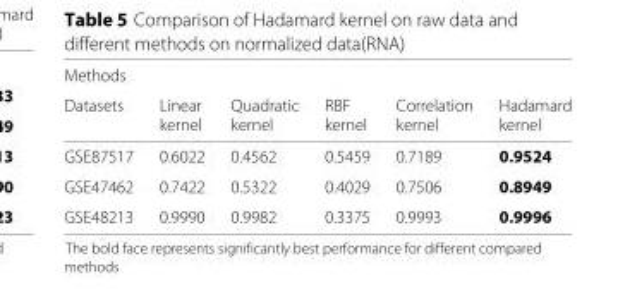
<table><thead><tr><td rowspan="3">Methods Datasets</td><td rowspan="3">Linear kernel</td><td rowspan="3">Quadratic kernel</td><td rowspan="3">RBF kernel</td><td rowspan="3">Correlation kernel</td><td rowspan="3">Hadamard kernel</td></tr><tr></tr><tr></tr></thead><tbody><tr><td>GSE87517</td><td>0.6022</td><td>0.4562</td><td>0.5459</td><td>0.7189</td><td>0.9524</td></tr><tr><td>GSE47462</td><td>0.7422</td><td>0.5322</td><td>0.4029</td><td>0.7506</td><td>0.8949</td></tr><tr><td>GSE48213</td><td>0.9990</td><td>0.9982</td><td>0.3375</td><td>0.9993</td><td>0.9996</td></tr></tbody></table>